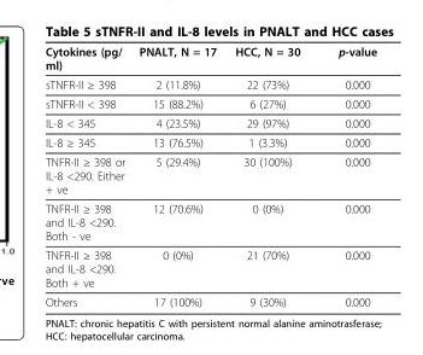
<table><thead><tr><td>Cytokines (pg/ ml)</td><td>PNALT, N = 17</td><td>HCC, N = 30</td><td>p-value</td></tr></thead><tbody><tr><td>sTNFR-II ≥ 398</td><td>2 (11.8%)</td><td>22 (73%)</td><td>0.000</td></tr><tr><td>sTNFR-II &lt; 398</td><td>15 (88.2%)</td><td>6 (27%)</td><td>0.000</td></tr><tr><td>IL-8 &lt; 345</td><td>4 (23.5%)</td><td>29 (97%)</td><td>0.000</td></tr><tr><td>IL-8 ≥ 345</td><td>13 (76.5%)</td><td>1 (3.3%)</td><td>0.000</td></tr><tr><td>TNFR-II ≥ 398 or IL-8 &lt;290. Either + ve</td><td>5 (29.4%)</td><td>30 (100%)</td><td>0.000</td></tr><tr><td>TNFR-II ≥ 398 and IL-8 &lt;290. Both - ve</td><td>12 (70.6%)</td><td>0 (0%)</td><td>0.000</td></tr><tr><td>TNFR-II ≥ 398 and IL-8 &lt;290. Both + ve</td><td>0 (0%)</td><td>21 (70%)</td><td>0.000</td></tr><tr><td>Others</td><td>17 (100%)</td><td>9 (30%)</td><td>0.000</td></tr></tbody></table>